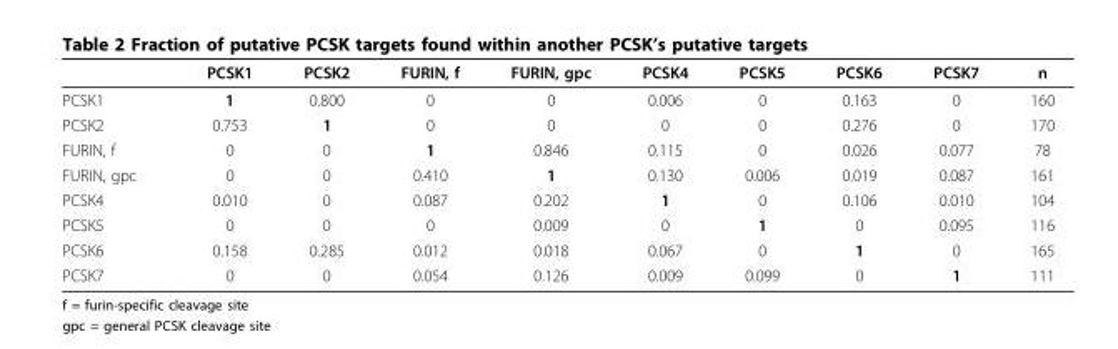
<table><thead><tr><td></td><td>PCSK1</td><td>PCSK2</td><td>FURIN, f</td><td>FURIN, gpc</td><td>PCSK4</td><td>PCSK5</td><td>PCSK6</td><td>PCSK7</td><td>n</td></tr></thead><tbody><tr><td>PCSK1</td><td>1</td><td>0.800</td><td>0</td><td>0</td><td>0.006</td><td>0</td><td>0.163</td><td>0</td><td>160</td></tr><tr><td>PCSK2</td><td>0.753</td><td>1</td><td>0</td><td>0</td><td>0</td><td>0</td><td>0.276</td><td>0</td><td>170</td></tr><tr><td>FURIN, f</td><td>0</td><td>0</td><td>1</td><td>0.846</td><td>0.115</td><td>0</td><td>0.026</td><td>0.077</td><td>78</td></tr><tr><td>FURIN, gpc</td><td>0</td><td>0</td><td>0.410</td><td>1</td><td>0.130</td><td>0.006</td><td>0.019</td><td>0.087</td><td>161</td></tr><tr><td>PCSK4</td><td>0.010</td><td>0</td><td>0.087</td><td>0.202</td><td>1</td><td>0</td><td>0.106</td><td>0.010</td><td>104</td></tr><tr><td>PCSK5</td><td>0</td><td>0</td><td>0</td><td>0.009</td><td>0</td><td>1</td><td>0</td><td>0.095</td><td>116</td></tr><tr><td>PCSK6</td><td>0.158</td><td>0.285</td><td>0.012</td><td>0.018</td><td>0.067</td><td>0</td><td>1</td><td>0</td><td>165</td></tr><tr><td>PCSK7</td><td>0</td><td>0</td><td>0.054</td><td>0.126</td><td>0.009</td><td>0.099</td><td>0</td><td>1</td><td>111</td></tr></tbody></table>